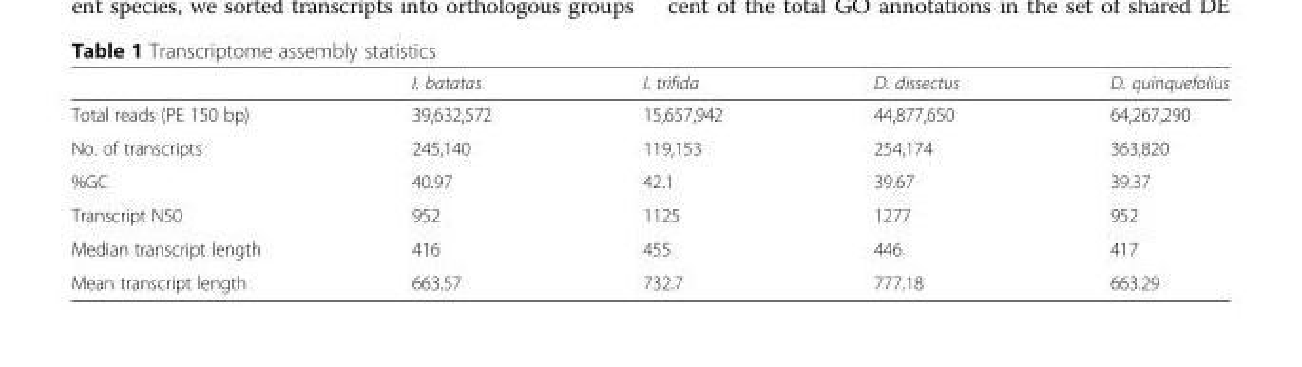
<table><thead><tr><td></td><td>I. batatas</td><td>I. trifida</td><td>D. dissectus</td><td>D. quinquefolius</td></tr></thead><tbody><tr><td>Total reads (PE 150 bp)</td><td>39,632,572</td><td>15,657,942</td><td>44,877,650</td><td>64,267,290</td></tr><tr><td>No. of transcripts</td><td>245,140</td><td>119,153</td><td>254,174</td><td>363,820</td></tr><tr><td>%GC</td><td>40.97</td><td>42.1</td><td>39.67</td><td>39.37</td></tr><tr><td>Transcript N50</td><td>952</td><td>1125</td><td>1277</td><td>952</td></tr><tr><td>Median transcript length</td><td>416</td><td>455</td><td>446</td><td>417</td></tr><tr><td>Mean transcript length</td><td>663.57</td><td>732.7</td><td>777.18</td><td>663.29</td></tr></tbody></table>